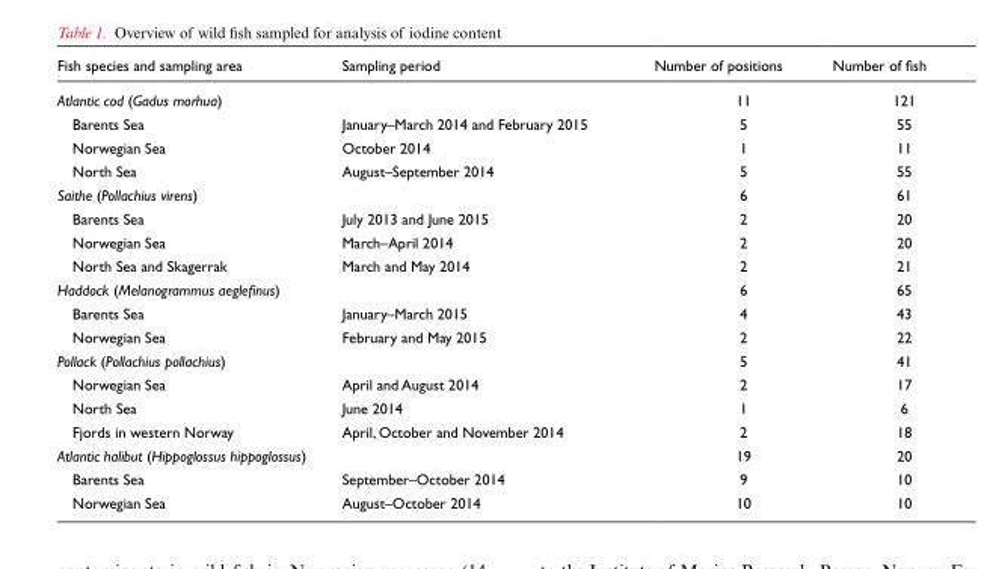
<table><thead><tr><td>Fish species and sampling area</td><td>Sampling period</td><td>Number of positions</td><td>Number of fish</td></tr></thead><tbody><tr><td>Atlantic cod (Gadus morhua)</td><td></td><td>11</td><td>121</td></tr><tr><td>Barents Sea</td><td>January–March 2014 and February 2015</td><td>5</td><td>55</td></tr><tr><td>Norwegian Sea</td><td>October 2014</td><td>1</td><td>11</td></tr><tr><td>North Sea</td><td>August–September 2014</td><td>5</td><td>55</td></tr><tr><td>Saithe (Pollachius virens)</td><td></td><td>6</td><td>61</td></tr><tr><td>Barents Sea</td><td>July 2013 and June 2015</td><td>2</td><td>20</td></tr><tr><td>Norwegian Sea</td><td>March–April 2014</td><td>2</td><td>20</td></tr><tr><td>North Sea and Skagerrak</td><td>March and May 2014</td><td>2</td><td>21</td></tr><tr><td>Haddock (Melanogrammus aeglefinus)</td><td></td><td>6</td><td>65</td></tr><tr><td>Barents Sea</td><td>January–March 2015</td><td>4</td><td>43</td></tr><tr><td>Norwegian Sea</td><td>February and May 2015</td><td>2</td><td>22</td></tr><tr><td>Pollack (Pollachius pollachius)</td><td></td><td>5</td><td>41</td></tr><tr><td>Norwegian Sea</td><td>April and August 2014</td><td>2</td><td>17</td></tr><tr><td>North Sea</td><td>June 2014</td><td>1</td><td>6</td></tr><tr><td>Fjords in western Norway</td><td>April, October and November 2014</td><td>2</td><td>18</td></tr><tr><td>Atlantic halibut (Hippoglossus hippoglossus)</td><td></td><td>19</td><td>20</td></tr><tr><td>Barents Sea</td><td>September–October 2014</td><td>9</td><td>10</td></tr><tr><td>Norwegian Sea</td><td>August–October 2014</td><td>10</td><td>10</td></tr></tbody></table>